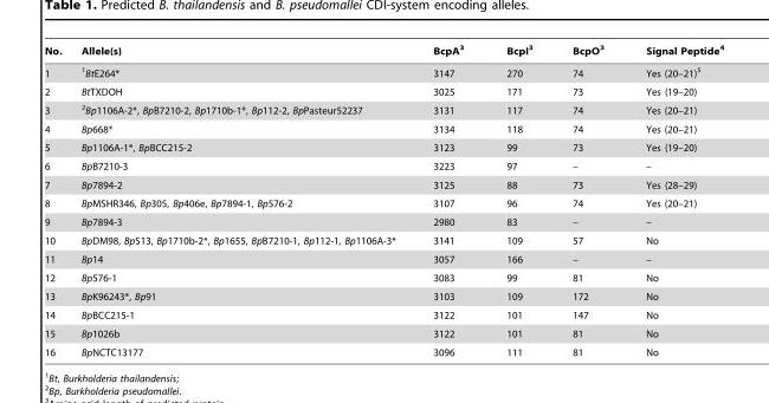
<table><thead><tr><td>No.</td><td>Allele(s)</td><td>BcpA<sup>3</sup></td><td>BcpI<sup>3</sup></td><td>BcpO<sup>3</sup></td><td>Signal Peptide<sup>4</sup></td></tr></thead><tbody><tr><td>1</td><td>1BtE264*</td><td>3147</td><td>270</td><td>74</td><td>Yes (20–21)<sup>5</sup></td></tr><tr><td>2</td><td>BtTXDOH</td><td>3025</td><td>171</td><td>73</td><td>Yes (19–20)</td></tr><tr><td>3</td><td>2Bp1106A-2*, BpB7210-2, Bp1710b-1*, Bp112-2, BpPasteur52237</td><td>3131</td><td>117</td><td>74</td><td>Yes (20–21)</td></tr><tr><td>4</td><td>Bp668*</td><td>3134</td><td>118</td><td>74</td><td>Yes (20–21)</td></tr><tr><td>5</td><td>Bp1106A-1*, BpBCC215-2</td><td>3123</td><td>99</td><td>73</td><td>Yes (19–20)</td></tr><tr><td>6</td><td>BpB7210-3</td><td>3223</td><td>97</td><td>–</td><td>–</td></tr><tr><td>7</td><td>Bp7894-2</td><td>3125</td><td>88</td><td>73</td><td>Yes (28–29)</td></tr><tr><td>8</td><td>BpMSHR346, Bp305, Bp406e, Bp7894-1, Bp576-2</td><td>3107</td><td>96</td><td>74</td><td>Yes (20–21)</td></tr><tr><td>9</td><td>Bp7894-3</td><td>2980</td><td>83</td><td>–</td><td>–</td></tr><tr><td>10</td><td>BpDM98, BpS13, Bp1710b-2*, Bp1655, BpB7210-1, Bp112-1, Bp1106A-3*</td><td>3141</td><td>109</td><td>57</td><td>No</td></tr><tr><td>11</td><td>Bp14</td><td>3057</td><td>166</td><td>–</td><td>–</td></tr><tr><td>12</td><td>Bp576-1</td><td>3083</td><td>99</td><td>81</td><td>No</td></tr><tr><td>13</td><td>BpK96243*, Bp91</td><td>3103</td><td>109</td><td>172</td><td>No</td></tr><tr><td>14</td><td>BpBCC215-1</td><td>3122</td><td>101</td><td>147</td><td>No</td></tr><tr><td>15</td><td>Bp1026b</td><td>3122</td><td>101</td><td>81</td><td>No</td></tr><tr><td>16</td><td>BpNCTC13177</td><td>3096</td><td>111</td><td>81</td><td>No</td></tr></tbody></table>